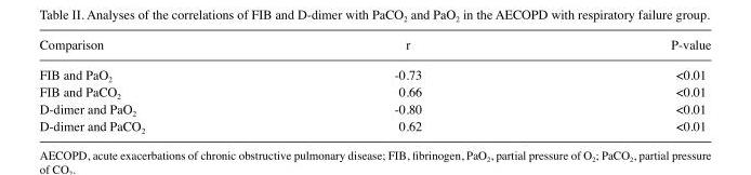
<table><thead><tr><td>Comparison</td><td>r</td><td>P-value</td></tr></thead><tbody><tr><td>FIB and PaO<sub>2</sub></td><td>-0.73</td><td>&lt;0.01</td></tr><tr><td>FIB and PaCO<sub>2</sub></td><td>0.66</td><td>&lt;0.01</td></tr><tr><td>D-dimer and PaO<sub>2</sub></td><td>-0.80</td><td>&lt;0.01</td></tr><tr><td>D-dimer and PaCO<sub>2</sub></td><td>0.62</td><td>&lt;0.01</td></tr></tbody></table>